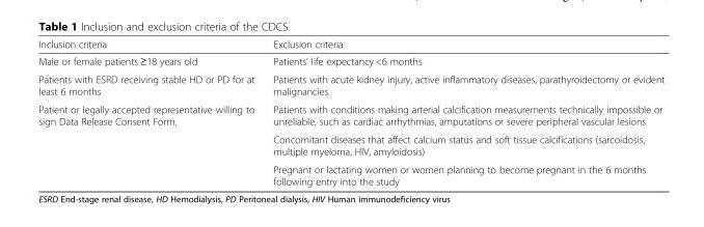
<table><thead><tr><td>Inclusion criteria</td><td>Exclusion criteria</td></tr></thead><tbody><tr><td>Male or female patients ≥18 years old</td><td>Patients’ life expectancy &lt;6 months</td></tr><tr><td>Patients with ESRD receiving stable HD or PD for at least 6 months</td><td>Patients with acute kidney injury, active inflammatory diseases, parathyroidectomy or evident malignancies</td></tr><tr><td rowspan="3">Patient or legally accepted representative willing to sign Data Release Consent Form.</td><td>Patients with conditions making arterial calcification measurements technically impossible or unreliable, such as cardiac arrhythmias, amputations or severe peripheral vascular lesions</td></tr><tr><td>Concomitant diseases that affect calcium status and soft tissue calcifications (sarcoidosis, multiple myeloma, HIV, amyloidosis)</td></tr><tr><td>Pregnant or lactating women or women planning to become pregnant in the 6 months following entry into the study</td></tr></tbody></table>